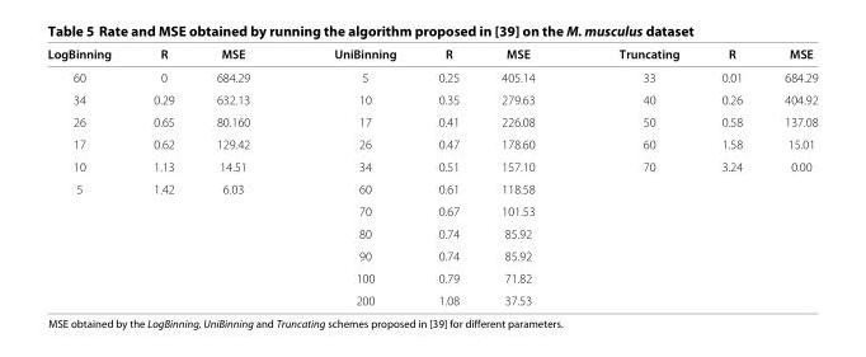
<table><thead><tr><td>LogBinning</td><td>R</td><td>MSE</td><td>UniBinning</td><td>R</td><td>MSE</td><td>Truncating</td><td>R</td><td>MSE</td></tr></thead><tbody><tr><td>60</td><td>0</td><td>684.29</td><td>5</td><td>0.25</td><td>405.14</td><td>33</td><td>0.01</td><td>684.29</td></tr><tr><td>34</td><td>0.29</td><td>632.13</td><td>10</td><td>0.35</td><td>279.63</td><td>40</td><td>0.26</td><td>404.92</td></tr><tr><td>26</td><td>0.65</td><td>80.160</td><td>17</td><td>0.41</td><td>226.08</td><td>50</td><td>0.58</td><td>137.08</td></tr><tr><td>17</td><td>0.62</td><td>129.42</td><td>26</td><td>0.47</td><td>178.60</td><td>60</td><td>1.58</td><td>15.01</td></tr><tr><td>10</td><td>1.13</td><td>14.51</td><td>34</td><td>0.51</td><td>157.10</td><td>70</td><td>3.24</td><td>0.00</td></tr><tr><td rowspan="6">5</td><td>1.42</td><td>6.03</td><td>60</td><td>0.61</td><td>118.58</td><td></td><td></td><td></td></tr><tr><td></td><td></td><td>70</td><td>0.67</td><td>101.53</td><td></td><td></td><td></td></tr><tr><td></td><td></td><td>80</td><td>0.74</td><td>85.92</td><td></td><td></td><td></td></tr><tr><td></td><td></td><td>90</td><td>0.74</td><td>85.92</td><td></td><td></td><td></td></tr><tr><td></td><td></td><td>100</td><td>0.79</td><td>71.82</td><td></td><td></td><td></td></tr><tr><td></td><td></td><td>200</td><td>1.08</td><td>37.53</td><td></td><td></td><td></td></tr></tbody></table>